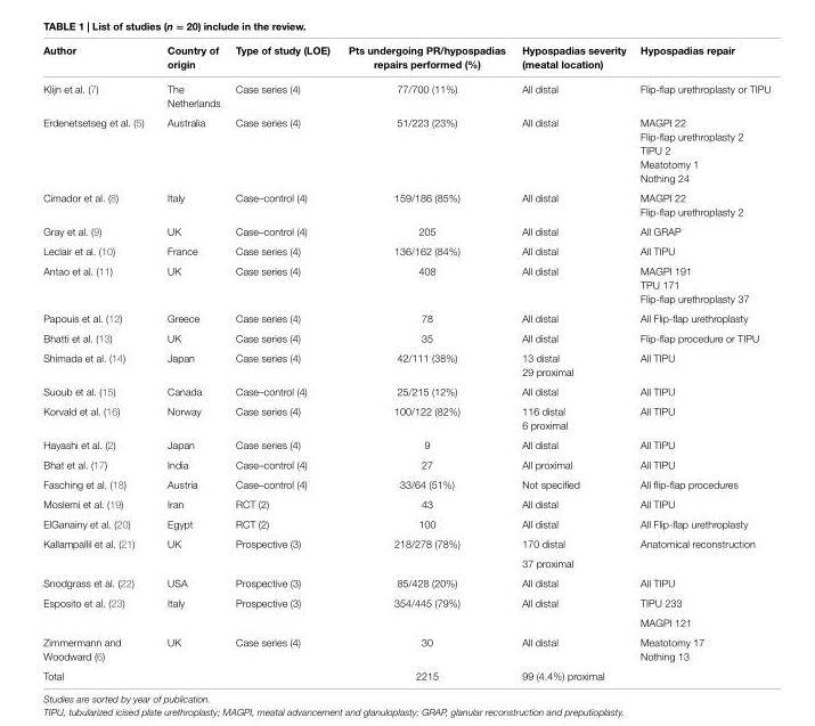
<table><thead><tr><td>author</td><td>country of origin</td><td>Type of study (lOe)</td><td>Pts undergoing Pr/hypospadias repairs performed (%)</td><td>hypospadias severity (meatal location)</td><td>hypospadias repair</td></tr></thead><tbody><tr><td>Klijn et al. (7)</td><td>The Netherlands</td><td>Case series (4)</td><td>77/700 (11%)</td><td>All distal</td><td>Flip-flap urethroplasty or TIPU</td></tr><tr><td rowspan="5">Erdenetsetseg et al. (5)</td><td rowspan="5">Australia</td><td rowspan="5">Case series (4)</td><td rowspan="5">51/223 (23%)</td><td rowspan="5">All distal</td><td>MAGPI 22</td></tr><tr><td>Flip-flap urethroplasty 2</td></tr><tr><td>TIPU 2</td></tr><tr><td>Meatotomy 1</td></tr><tr><td>Nothing 24</td></tr><tr><td rowspan="2">Cimador et al. (8)</td><td rowspan="2">Italy</td><td rowspan="2">Case–control (4)</td><td rowspan="2">159/186 (85%)</td><td rowspan="2">All distal</td><td>MAGPI 22</td></tr><tr><td>Flip-flap urethroplasty 2</td></tr><tr><td>Gray et al. (9)</td><td>UK</td><td>Case–control (4)</td><td>205</td><td>All distal</td><td>All GRAP</td></tr><tr><td>Leclair et al. (10)</td><td>France</td><td>Case series (4)</td><td>136/162 (84%)</td><td>All distal</td><td>All TIPU</td></tr><tr><td rowspan="3">Antao et al. (11)</td><td rowspan="3">UK</td><td rowspan="3">Case series (4)</td><td rowspan="3">408</td><td rowspan="3">All distal</td><td>MAGPI 191</td></tr><tr><td>TPU 171</td></tr><tr><td>Flip-flap urethroplasty 37</td></tr><tr><td>Papouis et al. (12)</td><td>Greece</td><td>Case series (4)</td><td>78</td><td>All distal</td><td>All Flip-flap urethroplasty</td></tr><tr><td>Bhatti et al. (13)</td><td>UK</td><td>Case series (4)</td><td>35</td><td>All distal</td><td>Flip-flap procedure or TIPU</td></tr><tr><td rowspan="2">Shimada et al. (14)</td><td rowspan="2">Japan</td><td rowspan="2">Case series (4)</td><td rowspan="2">42/111 (38%)</td><td>13 distal</td><td rowspan="2">All TIPU</td></tr><tr><td>29 proximal</td></tr><tr><td>Suoub et al. (15)</td><td>Canada</td><td>Case–control (4)</td><td>25/215 (12%)</td><td>All distal</td><td>All TIPU</td></tr><tr><td rowspan="2">Korvald et al. (16)</td><td rowspan="2">Norway</td><td rowspan="2">Case series (4)</td><td rowspan="2">100/122 (82%)</td><td>116 distal</td><td rowspan="2">All TIPU</td></tr><tr><td>6 proximal</td></tr><tr><td>Hayashi et al. (2)</td><td>Japan</td><td>Case series (4)</td><td>9</td><td>All distal</td><td>All TIPU</td></tr><tr><td>Bhat et al. (17)</td><td>India</td><td>Case–control (4)</td><td>27</td><td>All proximal</td><td>All TIPU</td></tr><tr><td>Fasching et al. (18)</td><td>Austria</td><td>Case–control (4)</td><td>33/64 (51%)</td><td>Not specified</td><td>All flip-flap procedures</td></tr><tr><td>Moslemi et al. (19)</td><td>Iran</td><td>RCT (2)</td><td>43</td><td>All distal</td><td>All TIPU</td></tr><tr><td>ElGanainy et al. (20)</td><td>Egypt</td><td>RCT (2)</td><td>100</td><td>All distal</td><td>All Flip-flap urethroplasty</td></tr><tr><td rowspan="2">Kallampallil et al. (21)</td><td rowspan="2">UK</td><td rowspan="2">Prospective (3)</td><td rowspan="2">218/278 (78%)</td><td>170 distal</td><td rowspan="2">Anatomical reconstruction</td></tr><tr><td>37 proximal</td></tr><tr><td>Snodgrass et al. (22)</td><td>USA</td><td>Prospective (3)</td><td>85/428 (20%)</td><td>All distal</td><td>All TIPU</td></tr><tr><td rowspan="2">Esposito et al. (23)</td><td rowspan="2">Italy</td><td rowspan="2">Prospective (3)</td><td rowspan="2">354/445 (79%)</td><td rowspan="2">All distal</td><td>TIPU 233</td></tr><tr><td>MAGPI 121</td></tr><tr><td rowspan="2">Zimmermann and Woodward (6)</td><td rowspan="2">UK</td><td rowspan="2">Case series (4)</td><td rowspan="2">30</td><td rowspan="2">All distal</td><td>Meatotomy 17</td></tr><tr><td>Nothing 13</td></tr><tr><td>Total</td><td></td><td></td><td>2215</td><td>99 (4.4%) proximal</td><td></td></tr></tbody></table>